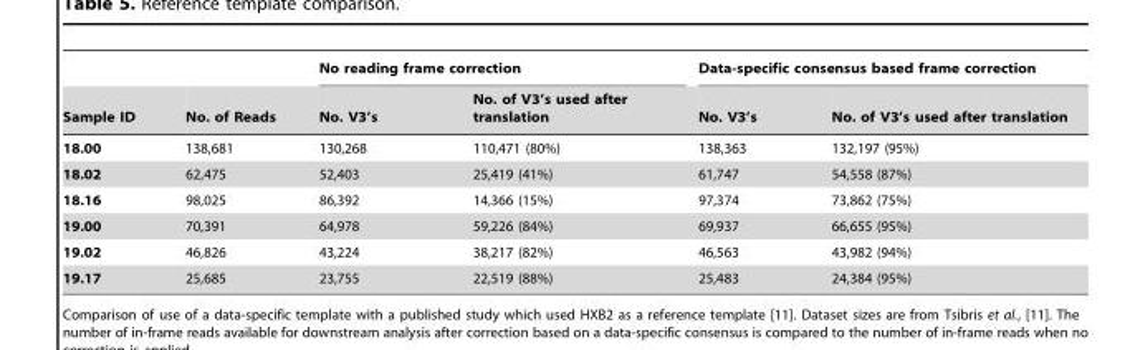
<table><thead><tr><td rowspan="2">Sample ID</td><td rowspan="2">No. of Reads</td><td colspan="2">No reading frame correction</td><td colspan="2">Data-specific consensus based frame correction</td></tr><tr><td>No. V3’s</td><td>No. of V3’s used after translation</td><td>No. V3’s</td><td>No. of V3’s used after translation</td></tr></thead><tbody><tr><td>18.00</td><td>138,681</td><td>130,268</td><td>110,471 (80%)</td><td>138,363</td><td>132,197 (95%)</td></tr><tr><td>18.02</td><td>62,475</td><td>52,403</td><td>25,419 (41%)</td><td>61,747</td><td>54,558 (87%)</td></tr><tr><td>18.16</td><td>98,025</td><td>86,392</td><td>14,366 (15%)</td><td>97,374</td><td>73,862 (75%)</td></tr><tr><td>19.00</td><td>70,391</td><td>64,978</td><td>59,226 (84%)</td><td>69,937</td><td>66,655 (95%)</td></tr><tr><td>19.02</td><td>46,826</td><td>43,224</td><td>38,217 (82%)</td><td>46,563</td><td>43,982 (94%)</td></tr><tr><td>19.17</td><td>25,685</td><td>23,755</td><td>22,519 (88%)</td><td>25,483</td><td>24,384 (95%)</td></tr></tbody></table>